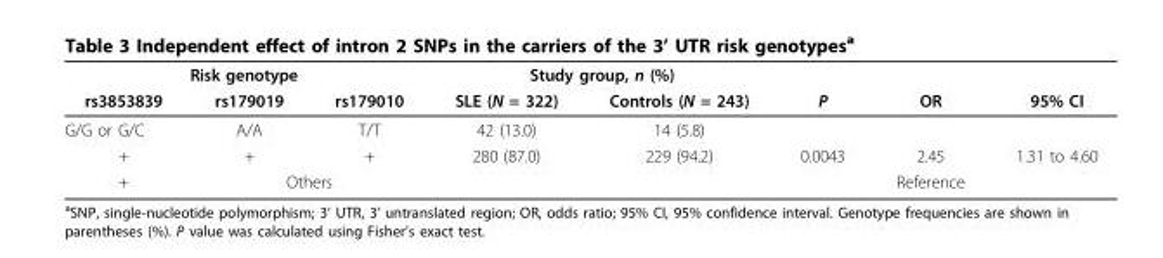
<table><thead><tr><td colspan="3">Risk genotype</td><td colspan="2">Study group, n (%)</td><td rowspan="2">P</td><td rowspan="2">OR</td><td rowspan="2">95% CI</td></tr><tr><td>rs3853839</td><td>rs179019</td><td>rs179010</td><td>SLE (N = 322)</td><td>Controls (N = 243)</td></tr></thead><tbody><tr><td>G/G or G/C</td><td>A/A</td><td>T/T</td><td>42 (13.0)</td><td>14 (5.8)</td><td></td><td></td><td></td></tr><tr><td>+</td><td>+</td><td>+</td><td>280 (87.0)</td><td>229 (94.2)</td><td>0.0043</td><td>2.45</td><td>1.31 to 4.60</td></tr><tr><td>+</td><td colspan="2">Others</td><td></td><td></td><td></td><td>Reference</td><td></td></tr></tbody></table>